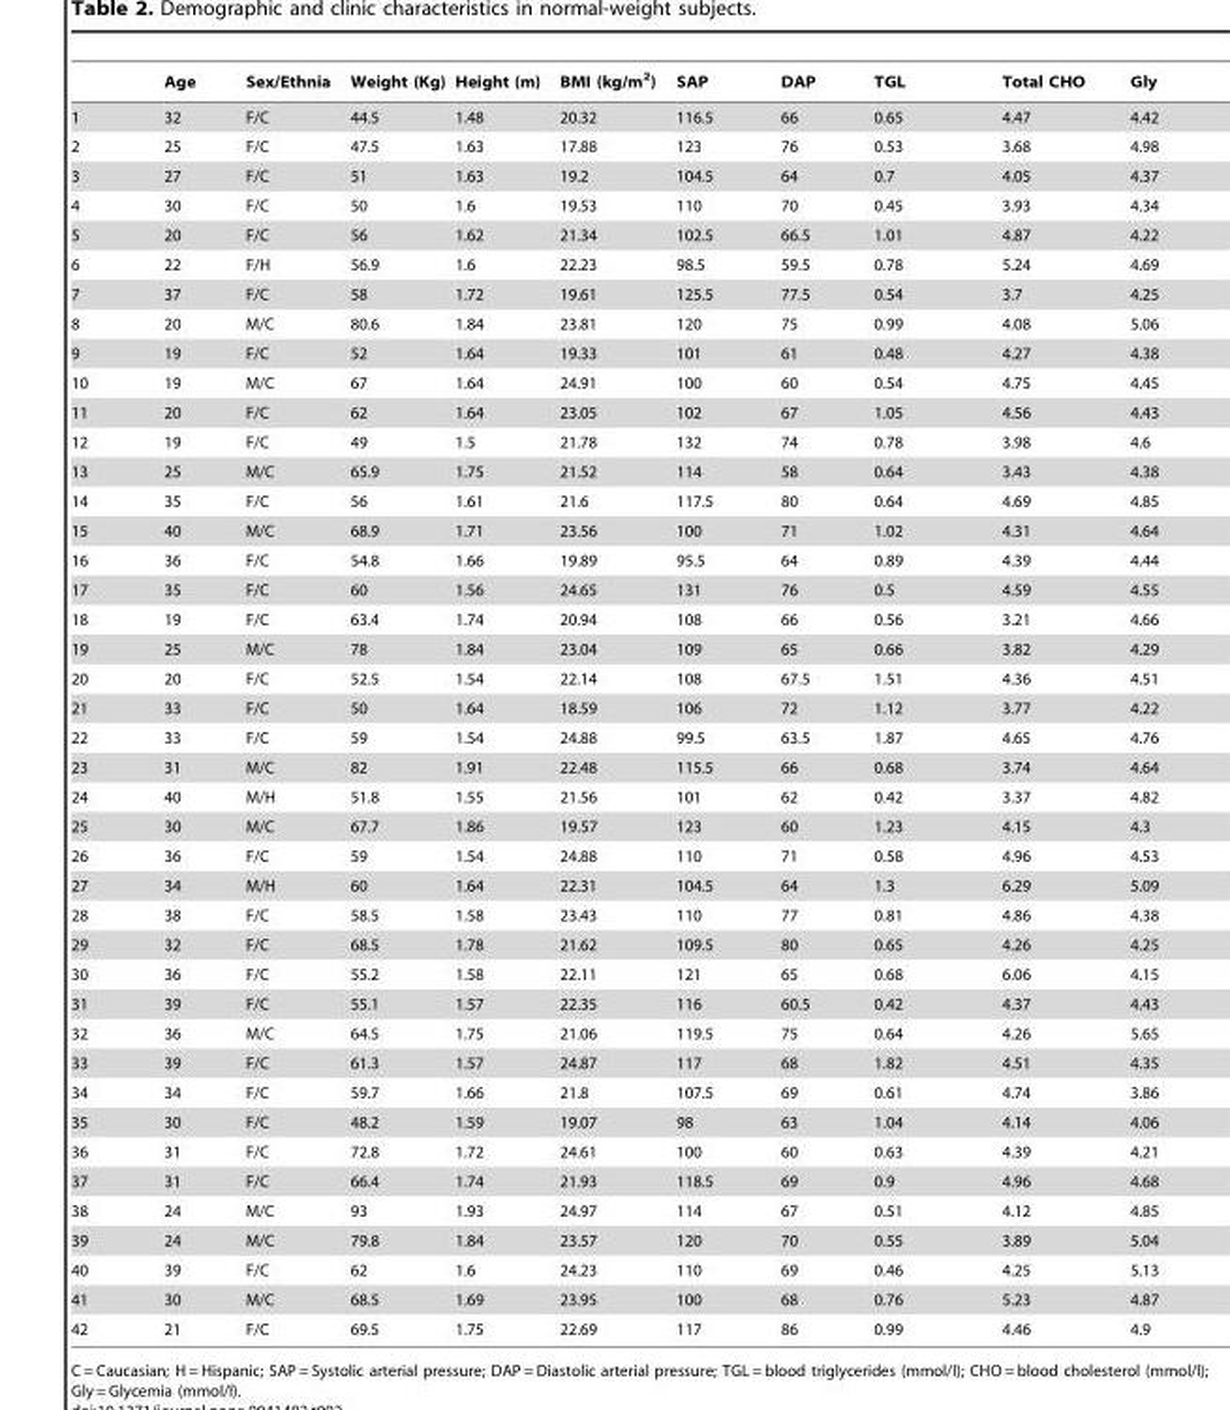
<table><thead><tr><td></td><td>Age</td><td>Sex/Ethnia</td><td>Weight (Kg)</td><td>Height (m)</td><td>BMI (kg/m<sup>2</sup>)</td><td>SAP</td><td>DAP</td><td>TGL</td><td>Total CHO</td><td>Gly</td></tr></thead><tbody><tr><td>1</td><td>32</td><td>F/C</td><td>44.5</td><td>1.48</td><td>20.32</td><td>116.5</td><td>66</td><td>0.65</td><td>4.47</td><td>4.42</td></tr><tr><td>2</td><td>25</td><td>F/C</td><td>47.5</td><td>1.63</td><td>17.88</td><td>123</td><td>76</td><td>0.53</td><td>3.68</td><td>4.98</td></tr><tr><td>3</td><td>27</td><td>F/C</td><td>51</td><td>1.63</td><td>19.2</td><td>104.5</td><td>64</td><td>0.7</td><td>4.05</td><td>4.37</td></tr><tr><td>4</td><td>30</td><td>F/C</td><td>50</td><td>1.6</td><td>19.53</td><td>110</td><td>70</td><td>0.45</td><td>3.93</td><td>4.34</td></tr><tr><td>5</td><td>20</td><td>F/C</td><td>56</td><td>1.62</td><td>21.34</td><td>102.5</td><td>66.5</td><td>1.01</td><td>4.87</td><td>4.22</td></tr><tr><td>6</td><td>22</td><td>F/H</td><td>56.9</td><td>1.6</td><td>22.23</td><td>98.5</td><td>59.5</td><td>0.78</td><td>5.24</td><td>4.69</td></tr><tr><td>7</td><td>37</td><td>F/C</td><td>58</td><td>1.72</td><td>19.61</td><td>125.5</td><td>77.5</td><td>0.54</td><td>3.7</td><td>4.25</td></tr><tr><td>8</td><td>20</td><td>M/C</td><td>80.6</td><td>1.84</td><td>23.81</td><td>120</td><td>75</td><td>0.99</td><td>4.08</td><td>5.06</td></tr><tr><td>9</td><td>19</td><td>F/C</td><td>52</td><td>1.64</td><td>19.33</td><td>101</td><td>61</td><td>0.48</td><td>4.27</td><td>4.38</td></tr><tr><td>10</td><td>19</td><td>M/C</td><td>67</td><td>1.64</td><td>24.91</td><td>100</td><td>60</td><td>0.54</td><td>4.75</td><td>4.45</td></tr><tr><td>11</td><td>20</td><td>F/C</td><td>62</td><td>1.64</td><td>23.05</td><td>102</td><td>67</td><td>1.05</td><td>4.56</td><td>4.43</td></tr><tr><td>12</td><td>19</td><td>F/C</td><td>49</td><td>1.5</td><td>21.78</td><td>132</td><td>74</td><td>0.78</td><td>3.98</td><td>4.6</td></tr><tr><td>13</td><td>25</td><td>M/C</td><td>65.9</td><td>1.75</td><td>21.52</td><td>114</td><td>58</td><td>0.64</td><td>3.43</td><td>4.38</td></tr><tr><td>14</td><td>35</td><td>F/C</td><td>56</td><td>1.61</td><td>21.6</td><td>117.5</td><td>80</td><td>0.64</td><td>4.69</td><td>4.85</td></tr><tr><td>15</td><td>40</td><td>M/C</td><td>68.9</td><td>1.71</td><td>23.56</td><td>100</td><td>71</td><td>1.02</td><td>4.31</td><td>4.64</td></tr><tr><td>16</td><td>36</td><td>F/C</td><td>54.8</td><td>1.66</td><td>19.89</td><td>95.5</td><td>64</td><td>0.89</td><td>4.39</td><td>4.44</td></tr><tr><td>17</td><td>35</td><td>F/C</td><td>60</td><td>1.56</td><td>24.65</td><td>131</td><td>76</td><td>0.5</td><td>4.59</td><td>4.55</td></tr><tr><td>18</td><td>19</td><td>F/C</td><td>63.4</td><td>1.74</td><td>20.94</td><td>108</td><td>66</td><td>0.56</td><td>3.21</td><td>4.66</td></tr><tr><td>19</td><td>25</td><td>M/C</td><td>78</td><td>1.84</td><td>23.04</td><td>109</td><td>65</td><td>0.66</td><td>3.82</td><td>4.29</td></tr><tr><td>20</td><td>20</td><td>F/C</td><td>52.5</td><td>1.54</td><td>22.14</td><td>108</td><td>67.5</td><td>1.51</td><td>4.36</td><td>4.51</td></tr><tr><td>21</td><td>33</td><td>F/C</td><td>50</td><td>1.64</td><td>18.59</td><td>106</td><td>72</td><td>1.12</td><td>3.77</td><td>4.22</td></tr><tr><td>22</td><td>33</td><td>F/C</td><td>59</td><td>1.54</td><td>24.88</td><td>99.5</td><td>63.5</td><td>1.87</td><td>4.65</td><td>4.76</td></tr><tr><td>23</td><td>31</td><td>M/C</td><td>82</td><td>1.91</td><td>22.48</td><td>115.5</td><td>66</td><td>0.68</td><td>3.74</td><td>4.64</td></tr><tr><td>24</td><td>40</td><td>M/H</td><td>51.8</td><td>1.55</td><td>21.56</td><td>101</td><td>62</td><td>0.42</td><td>3.37</td><td>4.82</td></tr><tr><td>25</td><td>30</td><td>M/C</td><td>67.7</td><td>1.86</td><td>19.57</td><td>123</td><td>60</td><td>1.23</td><td>4.15</td><td>4.3</td></tr><tr><td>26</td><td>36</td><td>F/C</td><td>59</td><td>1.54</td><td>24.88</td><td>110</td><td>71</td><td>0.58</td><td>4.96</td><td>4.53</td></tr><tr><td>27</td><td>34</td><td>M/H</td><td>60</td><td>1.64</td><td>22.31</td><td>104.5</td><td>64</td><td>1.3</td><td>6.29</td><td>5.09</td></tr><tr><td>28</td><td>38</td><td>F/C</td><td>58.5</td><td>1.58</td><td>23.43</td><td>110</td><td>77</td><td>0.81</td><td>4.86</td><td>4.38</td></tr><tr><td>29</td><td>32</td><td>F/C</td><td>68.5</td><td>1.78</td><td>21.62</td><td>109.5</td><td>80</td><td>0.65</td><td>4.26</td><td>4.25</td></tr><tr><td>30</td><td>36</td><td>F/C</td><td>55.2</td><td>1.58</td><td>22.11</td><td>121</td><td>65</td><td>0.68</td><td>6.06</td><td>4.15</td></tr><tr><td>31</td><td>39</td><td>F/C</td><td>55.1</td><td>1.57</td><td>22.35</td><td>116</td><td>60.5</td><td>0.42</td><td>4.37</td><td>4.43</td></tr><tr><td>32</td><td>36</td><td>M/C</td><td>64.5</td><td>1.75</td><td>21.06</td><td>119.5</td><td>75</td><td>0.64</td><td>4.26</td><td>5.65</td></tr><tr><td>33</td><td>39</td><td>F/C</td><td>61.3</td><td>1.57</td><td>24.87</td><td>117</td><td>68</td><td>1.82</td><td>4.51</td><td>4.35</td></tr><tr><td>34</td><td>34</td><td>F/C</td><td>59.7</td><td>1.66</td><td>21.8</td><td>107.5</td><td>69</td><td>0.61</td><td>4.74</td><td>3.86</td></tr><tr><td>35</td><td>30</td><td>F/C</td><td>48.2</td><td>1.59</td><td>19.07</td><td>98</td><td>63</td><td>1.04</td><td>4.14</td><td>4.06</td></tr><tr><td>36</td><td>31</td><td>F/C</td><td>72.8</td><td>1.72</td><td>24.61</td><td>100</td><td>60</td><td>0.63</td><td>4.39</td><td>4.21</td></tr><tr><td>37</td><td>31</td><td>F/C</td><td>66.4</td><td>1.74</td><td>21.93</td><td>118.5</td><td>69</td><td>0.9</td><td>4.96</td><td>4.68</td></tr><tr><td>38</td><td>24</td><td>M/C</td><td>93</td><td>1.93</td><td>24.97</td><td>114</td><td>67</td><td>0.51</td><td>4.12</td><td>4.85</td></tr><tr><td>39</td><td>24</td><td>M/C</td><td>79.8</td><td>1.84</td><td>23.57</td><td>120</td><td>70</td><td>0.55</td><td>3.89</td><td>5.04</td></tr><tr><td>40</td><td>39</td><td>F/C</td><td>62</td><td>1.6</td><td>24.23</td><td>110</td><td>69</td><td>0.46</td><td>4.25</td><td>5.13</td></tr><tr><td>41</td><td>30</td><td>M/C</td><td>68.5</td><td>1.69</td><td>23.95</td><td>100</td><td>68</td><td>0.76</td><td>5.23</td><td>4.87</td></tr><tr><td>42</td><td>21</td><td>F/C</td><td>69.5</td><td>1.75</td><td>22.69</td><td>117</td><td>86</td><td>0.99</td><td>4.46</td><td>4.9</td></tr></tbody></table>